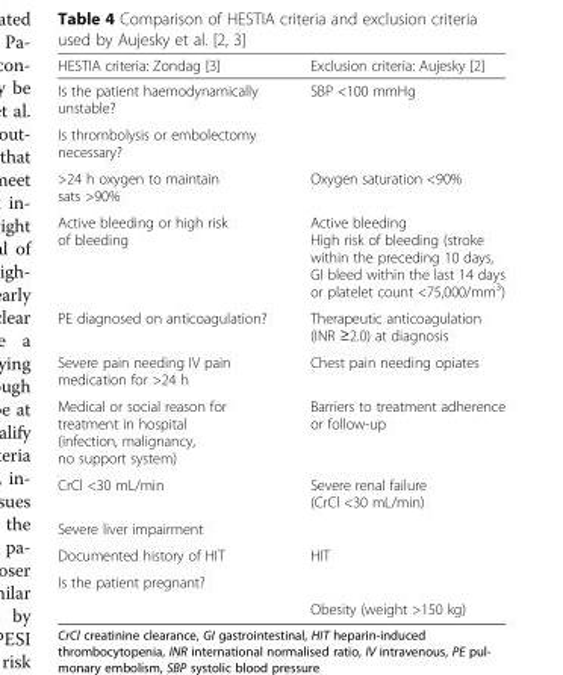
<table><thead><tr><td>HESTIA criteria: Zondag [3]</td><td>Exclusion criteria: Aujesky [2]</td></tr></thead><tbody><tr><td>Is the patient haemodynamically unstable?</td><td>SBP &lt;100 mmHg</td></tr><tr><td colspan="2">Is thrombolysis or embolectomy necessary?</td></tr><tr><td>&gt;24 h oxygen to maintain sats &gt;90%</td><td>Oxygen saturation &lt;90%</td></tr><tr><td>Active bleeding or high risk of bleeding</td><td>Active bleeding High risk of bleeding (stroke within the preceding 10 days, GI bleed within the last 14 days or platelet count &lt;75,000/mm<sup>3</sup>)</td></tr><tr><td>PE diagnosed on anticoagulation?</td><td>Therapeutic anticoagulation (INR ≥2.0) at diagnosis</td></tr><tr><td>Severe pain needing IV pain medication for &gt;24 h</td><td>Chest pain needing opiates</td></tr><tr><td>Medical or social reason for treatment in hospital (infection, malignancy, no support system)</td><td>Barriers to treatment adherence or follow-up</td></tr><tr><td>CrCl &lt;30 mL/min</td><td>Severe renal failure (CrCl &lt;30 mL/min)</td></tr><tr><td colspan="2">Severe liver impairment</td></tr><tr><td>Documented history of HIT</td><td>HIT</td></tr><tr><td colspan="2">Is the patient pregnant?</td></tr><tr><td></td><td>Obesity (weight &gt;150 kg)</td></tr></tbody></table>